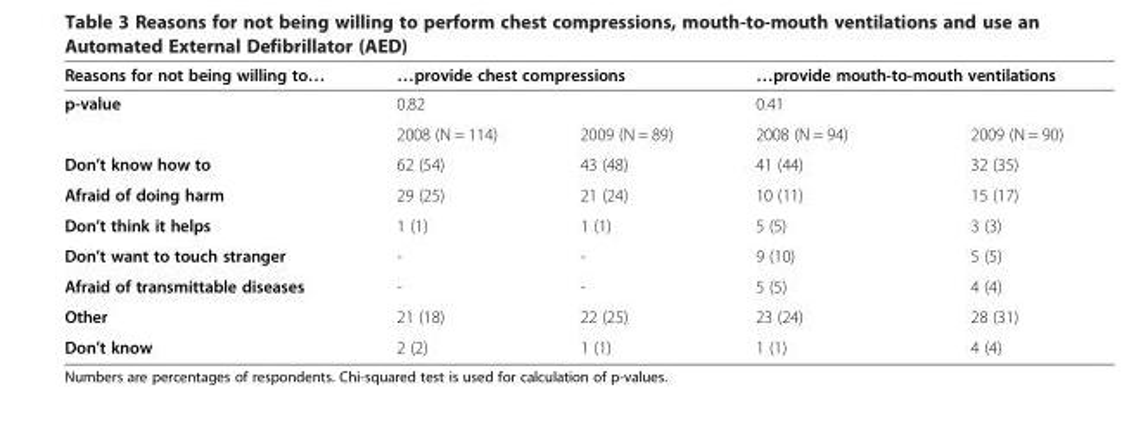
<table><thead><tr><td rowspan="3">Reasons for not being willing to… p-value</td><td rowspan="2" colspan="2">…provide chest compressions 0.82</td><td rowspan="2" colspan="2">…provide mouth-to-mouth ventilations 0.41</td></tr><tr></tr><tr><td>2008 (N = 114)</td><td>2009 (N = 89)</td><td>2008 (N = 94)</td><td>2009 (N = 90)</td></tr></thead><tbody><tr><td>Don’t know how to</td><td>62 (54)</td><td>43 (48)</td><td>41 (44)</td><td>32 (35)</td></tr><tr><td>Afraid of doing harm</td><td>29 (25)</td><td>21 (24)</td><td>10 (11)</td><td>15 (17)</td></tr><tr><td>Don’t think it helps</td><td>1 (1)</td><td>1 (1)</td><td>5 (5)</td><td>3 (3)</td></tr><tr><td>Don’t want to touch stranger</td><td>-</td><td>-</td><td>9 (10)</td><td>5 (5)</td></tr><tr><td>Afraid of transmittable diseases</td><td>-</td><td>-</td><td>5 (5)</td><td>4 (4)</td></tr><tr><td>Other</td><td>21 (18)</td><td>22 (25)</td><td>23 (24)</td><td>28 (31)</td></tr><tr><td>Don’t know</td><td>2 (2)</td><td>1 (1)</td><td>1 (1)</td><td>4 (4)</td></tr></tbody></table>